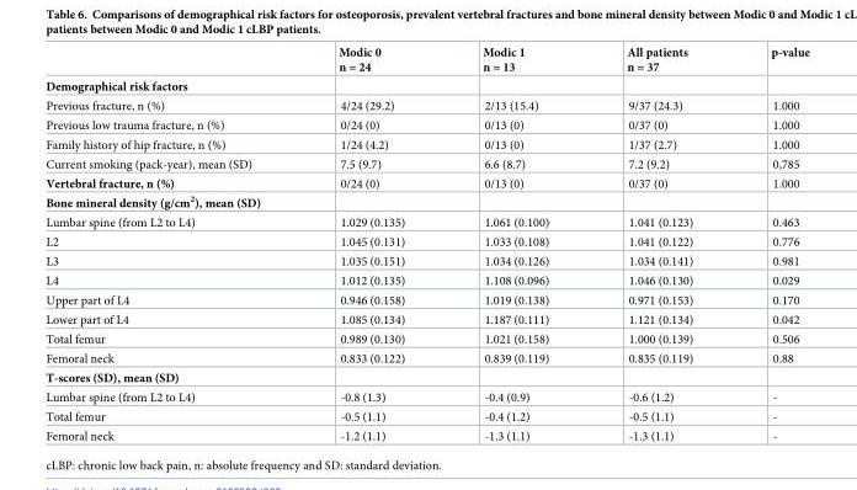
<table><thead><tr><td></td><td>Modic 0 n = 24</td><td>Modic 1 n = 13</td><td>All patients n = 37</td><td>p-value</td></tr></thead><tbody><tr><td colspan="5">Demographical risk factors</td></tr><tr><td>Previous fracture, n (%)</td><td>4/24 (29.2)</td><td>2/13 (15.4)</td><td>9/37 (24.3)</td><td>1.000</td></tr><tr><td>Previous low trauma fracture, n (%)</td><td>0/24 (0)</td><td>0/13 (0)</td><td>0/37 (0)</td><td>1.000</td></tr><tr><td>Family history of hip fracture, n (%)</td><td>1/24 (4.2)</td><td>0/13 (0)</td><td>1/37 (2.7)</td><td>1.000</td></tr><tr><td>Current smoking (pack-year), mean (SD)</td><td>7.5 (9.7)</td><td>6.6 (8.7)</td><td>7.2 (9.2)</td><td>0,785</td></tr><tr><td>Vertebral fracture, n (%)</td><td>0/24 (0)</td><td>0/13 (0)</td><td>0/37 (0)</td><td>1.000</td></tr><tr><td colspan="5">Bone mineral density (g/cm<sup>2</sup>), mean (SD)</td></tr><tr><td>Lumbar spine (from L2 to L4)</td><td>1.029 (0.135)</td><td>1.061 (0.100)</td><td>1.041 (0.123)</td><td>0.463</td></tr><tr><td>L2</td><td>1.045 (0.131)</td><td>1.033 (0.108)</td><td>1.041 (0.122)</td><td>0.776</td></tr><tr><td>L3</td><td>1.035 (0.151)</td><td>1.034 (0.126)</td><td>1.034 (0.141)</td><td>0.981</td></tr><tr><td>L4</td><td>1.012 (0.135)</td><td>1.108 (0.096)</td><td>1.046 (0.130)</td><td>0.029</td></tr><tr><td>Upper part of L4</td><td>0.946 (0.158)</td><td>1.019 (0.138)</td><td>0.971 (0.153)</td><td>0.170</td></tr><tr><td>Lower part of L4</td><td>1.085 (0.134)</td><td>1.187 (0.111)</td><td>1.121 (0.134)</td><td>0.042</td></tr><tr><td>Total femur</td><td>0.989 (0.130)</td><td>1.021 (0.158)</td><td>1.000 (0.139)</td><td>0.506</td></tr><tr><td>Femoral neck</td><td>0.833 (0.122)</td><td>0.839 (0.119)</td><td>0.835 (0.119)</td><td>0.88</td></tr><tr><td colspan="5">T-scores (SD), mean (SD)</td></tr><tr><td>Lumbar spine (from L2 to L4)</td><td>-0.8 (1.3)</td><td>-0.4 (0.9)</td><td>-0.6 (1.2)</td><td>-</td></tr><tr><td>Total femur</td><td>-0.5 (1.1)</td><td>-0.4 (1.2)</td><td>-0.5 (1.1)</td><td>-</td></tr><tr><td>Femoral neck</td><td>-1.2 (1.1)</td><td>-1.3 (1.1)</td><td>-1.3 (1.1)</td><td>-</td></tr></tbody></table>